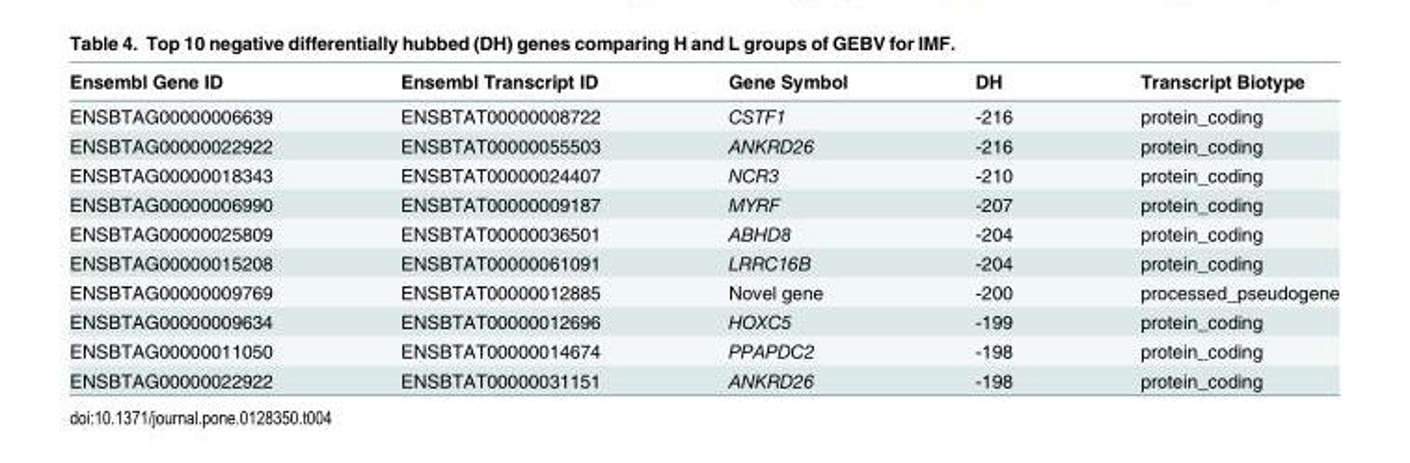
<table><thead><tr><td>Ensembl Gene ID</td><td>Ensembl Transcript ID</td><td>Gene Symbol</td><td>DH</td><td>Transcript Biotype</td></tr></thead><tbody><tr><td>ENSBTAG00000006639</td><td>ENSBTAT00000008722</td><td>CSTF1</td><td>-216</td><td>protein_coding</td></tr><tr><td>ENSBTAG00000022922</td><td>ENSBTAT00000055503</td><td>ANKRD26</td><td>-216</td><td>protein_coding</td></tr><tr><td>ENSBTAG00000018343</td><td>ENSBTAT00000024407</td><td>NCR3</td><td>-210</td><td>protein_coding</td></tr><tr><td>ENSBTAG00000006990</td><td>ENSBTAT00000009187</td><td>MYRF</td><td>-207</td><td>protein_coding</td></tr><tr><td>ENSBTAG00000025809</td><td>ENSBTAT00000036501</td><td>ABHD8</td><td>-204</td><td>protein_coding</td></tr><tr><td>ENSBTAG00000015208</td><td>ENSBTAT00000061091</td><td>LRRC16B</td><td>-204</td><td>protein_coding</td></tr><tr><td>ENSBTAG00000009769</td><td>ENSBTAT00000012885</td><td>Novel gene</td><td>-200</td><td>processed_pseudogene</td></tr><tr><td>ENSBTAG00000009634</td><td>ENSBTAT00000012696</td><td>HOXC5</td><td>-199</td><td>protein_coding</td></tr><tr><td>ENSBTAG00000011050</td><td>ENSBTAT00000014674</td><td>PPAPDC2</td><td>-198</td><td>protein_coding</td></tr><tr><td>ENSBTAG00000022922</td><td>ENSBTAT00000031151</td><td>ANKRD26</td><td>-198</td><td>protein_coding</td></tr></tbody></table>